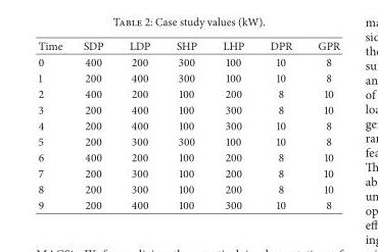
<table><thead><tr><td>Time</td><td>SDP</td><td>LDP</td><td>SHP</td><td>LHP</td><td>DPR</td><td>GPR</td></tr></thead><tbody><tr><td>0</td><td>400</td><td>200</td><td>300</td><td>100</td><td>10</td><td>8</td></tr><tr><td>1</td><td>200</td><td>400</td><td>300</td><td>100</td><td>10</td><td>8</td></tr><tr><td>2</td><td>400</td><td>200</td><td>100</td><td>200</td><td>8</td><td>10</td></tr><tr><td>3</td><td>200</td><td>400</td><td>100</td><td>300</td><td>8</td><td>10</td></tr><tr><td>4</td><td>200</td><td>400</td><td>100</td><td>300</td><td>10</td><td>8</td></tr><tr><td>5</td><td>200</td><td>300</td><td>300</td><td>100</td><td>10</td><td>8</td></tr><tr><td>6</td><td>400</td><td>200</td><td>100</td><td>200</td><td>8</td><td>10</td></tr><tr><td>7</td><td>200</td><td>300</td><td>100</td><td>200</td><td>8</td><td>10</td></tr><tr><td>8</td><td>200</td><td>300</td><td>100</td><td>200</td><td>8</td><td>10</td></tr><tr><td>9</td><td>200</td><td>400</td><td>100</td><td>300</td><td>10</td><td>8</td></tr></tbody></table>